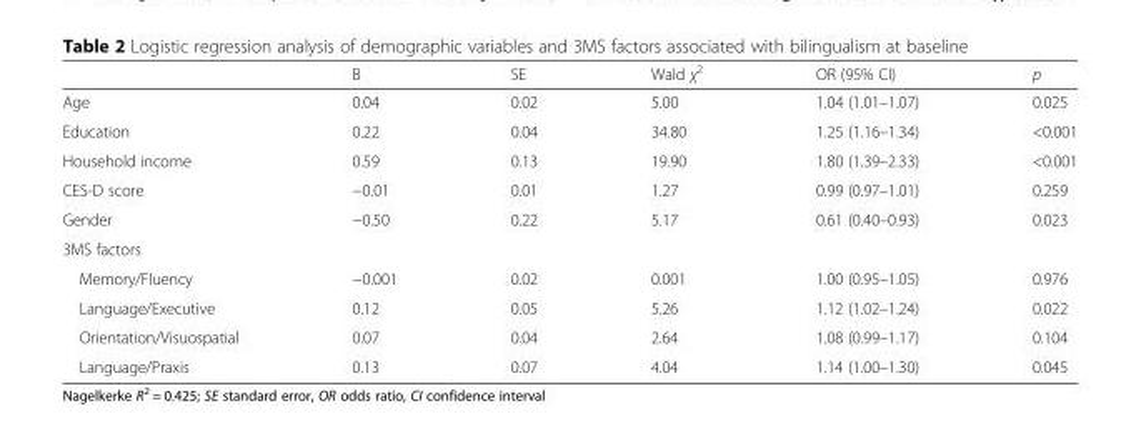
<table><thead><tr><td></td><td>B</td><td>SE</td><td>Wald χ<sup>2</sup></td><td>OR (95% CI)</td><td>p</td></tr></thead><tbody><tr><td>Age</td><td>0.04</td><td>0.02</td><td>5.00</td><td>1.04 (1.01–1.07)</td><td>0.025</td></tr><tr><td>Education</td><td>0.22</td><td>0.04</td><td>34.80</td><td>1.25 (1.16–1.34)</td><td>&lt;0.001</td></tr><tr><td>Household income</td><td>0.59</td><td>0.13</td><td>19.90</td><td>1.80 (1.39–2.33)</td><td>&lt;0.001</td></tr><tr><td>CES-D score</td><td>−0.01</td><td>0.01</td><td>1.27</td><td>0.99 (0.97–1.01)</td><td>0.259</td></tr><tr><td>Gender</td><td>−0.50</td><td>0.22</td><td>5.17</td><td>0.61 (0.40–0.93)</td><td>0.023</td></tr><tr><td colspan="6">3MS factors</td></tr><tr><td>Memory/Fluency</td><td>−0.001</td><td>0.02</td><td>0.001</td><td>1.00 (0.95–1.05)</td><td>0.976</td></tr><tr><td>Language/Executive</td><td>0.12</td><td>0.05</td><td>5.26</td><td>1.12 (1.02–1.24)</td><td>0.022</td></tr><tr><td>Orientation/Visuospatial</td><td>0.07</td><td>0.04</td><td>2.64</td><td>1.08 (0.99–1.17)</td><td>0.104</td></tr><tr><td>Language/Praxis</td><td>0.13</td><td>0.07</td><td>4.04</td><td>1.14 (1.00–1.30)</td><td>0.045</td></tr></tbody></table>